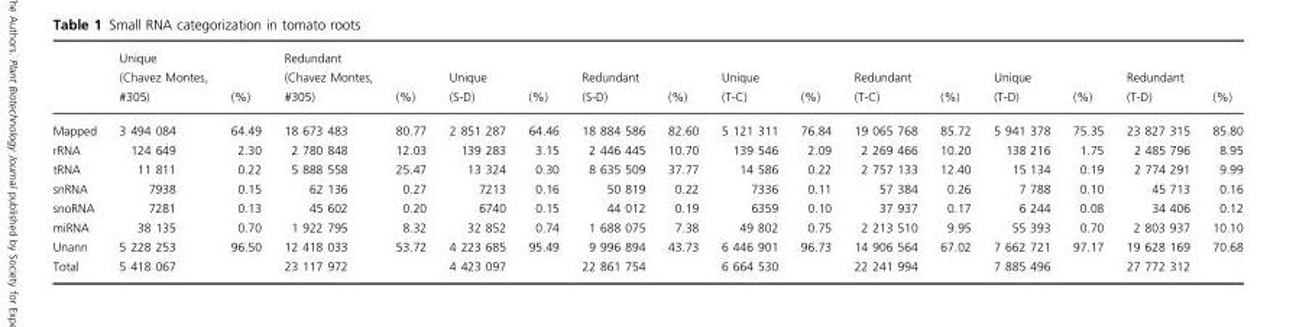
<table><thead><tr><td></td><td>Unique (Chavez Montes, #305)</td><td>(%)</td><td>Redundant (Chavez Montes, #305)</td><td>(%)</td><td>Unique (S-D)</td><td>(%)</td><td>Redundant (S-D)</td><td>(%)</td><td>Unique (T-C)</td><td>(%)</td><td>Redundant (T-C)</td><td>(%)</td><td>Unique (T-D)</td><td>(%)</td><td>Redundant (T-D)</td><td>(%)</td></tr></thead><tbody><tr><td>Mapped</td><td>3 494 084</td><td>64.49</td><td>18 673 483</td><td>80.77</td><td>2 851 287</td><td>64.46</td><td>18 884 586</td><td>82.60</td><td>5 121 311</td><td>76.84</td><td>19 065 768</td><td>85.72</td><td>5 941 378</td><td>75.35</td><td>23 827 315</td><td>85.80</td></tr><tr><td>rRNA</td><td>124 649</td><td>2.30</td><td>2 780 848</td><td>12.03</td><td>139 283</td><td>3.15</td><td>2 446 445</td><td>10.70</td><td>139 546</td><td>2.09</td><td>2 269 466</td><td>10.20</td><td>138 216</td><td>1.75</td><td>2 485 796</td><td>8.95</td></tr><tr><td>tRNA</td><td>11 811</td><td>0.22</td><td>5 888 558</td><td>25.47</td><td>13 324</td><td>0.30</td><td>8 635 509</td><td>37.77</td><td>14 586</td><td>0.22</td><td>2 757 133</td><td>12.40</td><td>15 134</td><td>0.19</td><td>2 774 291</td><td>9.99</td></tr><tr><td>snRNA</td><td>7938</td><td>0.15</td><td>62 136</td><td>0.27</td><td>7213</td><td>0.16</td><td>50 819</td><td>0.22</td><td>7336</td><td>0.11</td><td>57 384</td><td>0.26</td><td>7 788</td><td>0.10</td><td>45 713</td><td>0.16</td></tr><tr><td>snoRNA</td><td>7281</td><td>0.13</td><td>45 602</td><td>0.20</td><td>6740</td><td>0.15</td><td>44 012</td><td>0.19</td><td>6359</td><td>0.10</td><td>37 937</td><td>0.17</td><td>6 244</td><td>0.08</td><td>34 406</td><td>0.12</td></tr><tr><td>miRNA</td><td>38 135</td><td>0.70</td><td>1 922 795</td><td>8.32</td><td>32 852</td><td>0.74</td><td>1 688 075</td><td>7.38</td><td>49 802</td><td>0.75</td><td>2 213 510</td><td>9.95</td><td>55 393</td><td>0.70</td><td>2 803 937</td><td>10.10</td></tr><tr><td>Unann</td><td>5 228 253</td><td>96.50</td><td>12 418 033</td><td>53.72</td><td>4 223 685</td><td>95.49</td><td>9 996 894</td><td>43.73</td><td>6 446 901</td><td>96.73</td><td>14 906 564</td><td>67.02</td><td>7 662 721</td><td>97.17</td><td>19 628 169</td><td>70.68</td></tr><tr><td>Total</td><td>5 418 067</td><td></td><td>23 117 972</td><td></td><td>4 423 097</td><td></td><td>22 861 754</td><td></td><td>6 664 530</td><td></td><td>22 241 994</td><td></td><td>7 885 496</td><td></td><td>27 772 312</td><td></td></tr></tbody></table>